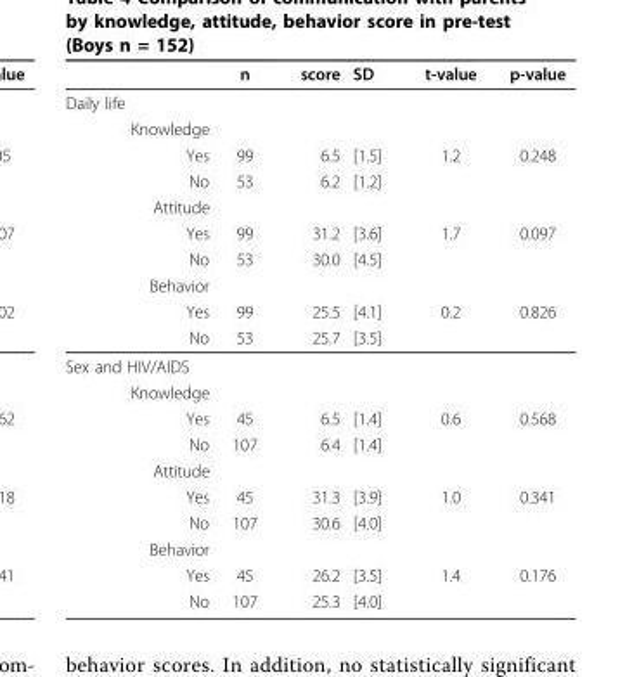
<table><thead><tr><td></td><td>n</td><td>score</td><td>SD</td><td>t-value</td><td>p-value</td></tr></thead><tbody><tr><td colspan="6">Daily life</td></tr><tr><td colspan="6">Knowledge</td></tr><tr><td>Yes</td><td>99</td><td>6.5</td><td>[1.5]</td><td>1.2</td><td>0.248</td></tr><tr><td>No</td><td>53</td><td>6.2</td><td>[1.2]</td><td></td><td></td></tr><tr><td colspan="6">Attitude</td></tr><tr><td>Yes</td><td>99</td><td>31.2</td><td>[3.6]</td><td>1.7</td><td>0.097</td></tr><tr><td>No</td><td>53</td><td>30.0</td><td>[4.5]</td><td></td><td></td></tr><tr><td colspan="6">Behavior</td></tr><tr><td>Yes</td><td>99</td><td>25.5</td><td>[4.1]</td><td>0.2</td><td>0.826</td></tr><tr><td>No</td><td>53</td><td>25.7</td><td>[3.5]</td><td></td><td></td></tr><tr><td colspan="6">Sex and HIV/AIDS</td></tr><tr><td colspan="6">Knowledge</td></tr><tr><td>Yes</td><td>45</td><td>6.5</td><td>[1.4]</td><td>0.6</td><td>0.568</td></tr><tr><td>No</td><td>107</td><td>6.4</td><td>[1.4]</td><td></td><td></td></tr><tr><td colspan="6">Attitude</td></tr><tr><td>Yes</td><td>45</td><td>31.3</td><td>[3.9]</td><td>1.0</td><td>0.341</td></tr><tr><td>No</td><td>107</td><td>30.6</td><td>[4.0]</td><td></td><td></td></tr><tr><td colspan="6">Behavior</td></tr><tr><td>Yes</td><td>45</td><td>26.2</td><td>[3.5]</td><td>1.4</td><td>0.176</td></tr><tr><td>No</td><td>107</td><td>25.3</td><td>[4.0]</td><td></td><td></td></tr></tbody></table>